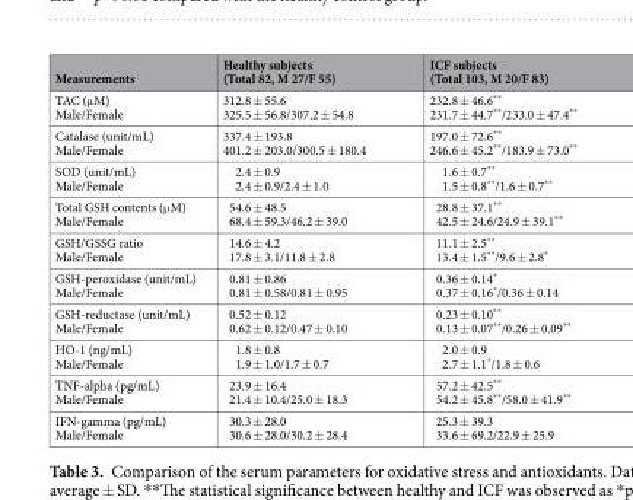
<table><thead><tr><td>Measurements</td><td>Healthy subjects (Total 82, M 27/F 55)</td><td>ICF subjects (Total 103, M 20/F 83)</td></tr></thead><tbody><tr><td>TAC (μM) Male/Female</td><td>312.8 ± 55.6 325.5 ± 56.8/307.2 ± 54.8</td><td>232.8 ± 46.6** 231.7 ± 44.7**/233.0 ± 47.4**</td></tr><tr><td>Catalase (unit/mL) Male/Female</td><td>337.4 ± 193.8 401.2 ± 203.0/300.5 ± 180.4</td><td>197.0 ± 72.6** 246.6 ± 45.2**/183.9 ± 73.0**</td></tr><tr><td>SOD (unit/mL) Male/Female</td><td>2.4 ± 0.9 2.4 ± 0.9/2.4 ± 1.0</td><td>1.6 ± 0.7** 1.5 ± 0.8**/1.6 ± 0.7**</td></tr><tr><td>Total GSH contents (μM) Male/Female</td><td>54.6 ± 48.5 68.4 ± 59.3/46.2 ± 39.0</td><td>28.8 ± 37.1** 42.5 ± 24.6/24.9 ± 39.1**</td></tr><tr><td>GSH/GSSG ratio Male/Female</td><td>14.6 ± 4.2 17.8 ± 3.1/11.8 ± 2.8</td><td>11.1 ± 2.5** 13.4 ± 1.5**/9.6 ± 2.8*</td></tr><tr><td>GSH-peroxidase (unit/mL) Male/Female</td><td>0.81 ± 0.86 0.81 ± 0.58/0.81 ± 0.95</td><td>0.36 ± 0.14* 0.37 ± 0.16*/0.36 ± 0.14</td></tr><tr><td>GSH-reductase (unit/mL) Male/Female</td><td>0.52 ± 0.12 0.62 ± 0.12/0.47 ± 0.10</td><td>0.23 ± 0.10** 0.13 ± 0.07**/0.26 ± 0.09**</td></tr><tr><td>HO-1 (ng/mL) Male/Female</td><td>1.8 ± 0.8 1.9 ± 1.0/1.7 ± 0.7</td><td>2.0 ± 0.9 2.7 ± 1.1*/1.8 ± 0.6</td></tr><tr><td>TNF-alpha (pg/mL) Male/Female</td><td>23.9 ± 16.4 21.4 ± 10.4/25.0 ± 18.3</td><td>57.2 ± 42.5** 54.2 ± 45.8**/58.0 ± 41.9**</td></tr><tr><td>IFN-gamma (pg/mL) Male/Female</td><td>30.3 ± 28.0 30.6 ± 28.0/30.2 ± 28.4</td><td>25.3 ± 39.3 33.6 ± 69.2/22.9 ± 25.9</td></tr></tbody></table>